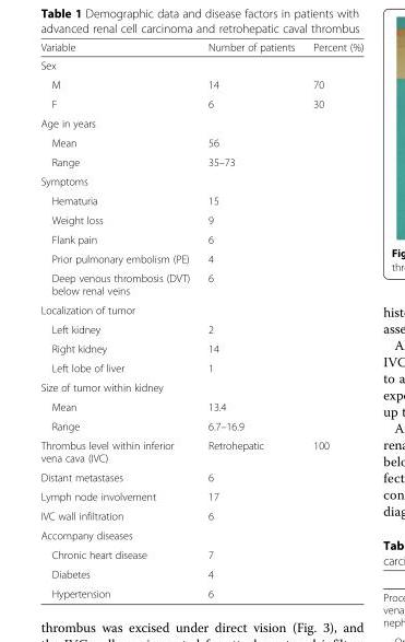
<table><thead><tr><td>Variable</td><td>Number of patients</td><td>Percent (%)</td></tr></thead><tbody><tr><td colspan="3">Sex</td></tr><tr><td>M</td><td>14</td><td>70</td></tr><tr><td>F</td><td>6</td><td>30</td></tr><tr><td colspan="3">Age in years</td></tr><tr><td>Mean</td><td>56</td><td></td></tr><tr><td>Range</td><td>35–73</td><td></td></tr><tr><td colspan="3">Symptoms</td></tr><tr><td>Hematuria</td><td>15</td><td></td></tr><tr><td>Weight loss</td><td>9</td><td></td></tr><tr><td>Flank pain</td><td>6</td><td></td></tr><tr><td>Prior pulmonary embolism (PE)</td><td>4</td><td></td></tr><tr><td>Deep venous thrombosis (DVT) below renal veins</td><td>6</td><td></td></tr><tr><td colspan="3">Localization of tumor</td></tr><tr><td>Left kidney</td><td>2</td><td></td></tr><tr><td>Right kidney</td><td>14</td><td></td></tr><tr><td>Left lobe of liver</td><td>1</td><td></td></tr><tr><td colspan="3">Size of tumor within kidney</td></tr><tr><td>Mean</td><td>13.4</td><td></td></tr><tr><td>Range</td><td>6.7–16.9</td><td></td></tr><tr><td>Thrombus level within inferior vena cava (IVC)</td><td>Retrohepatic</td><td>100</td></tr><tr><td>Distant metastases</td><td>6</td><td></td></tr><tr><td>Lymph node involvement</td><td>17</td><td></td></tr><tr><td>IVC wall infiltration</td><td>6</td><td></td></tr><tr><td colspan="3">Accompany diseases</td></tr><tr><td>Chronic heart disease</td><td>7</td><td></td></tr><tr><td>Diabetes</td><td>4</td><td></td></tr><tr><td>Hypertension</td><td>6</td><td></td></tr></tbody></table>